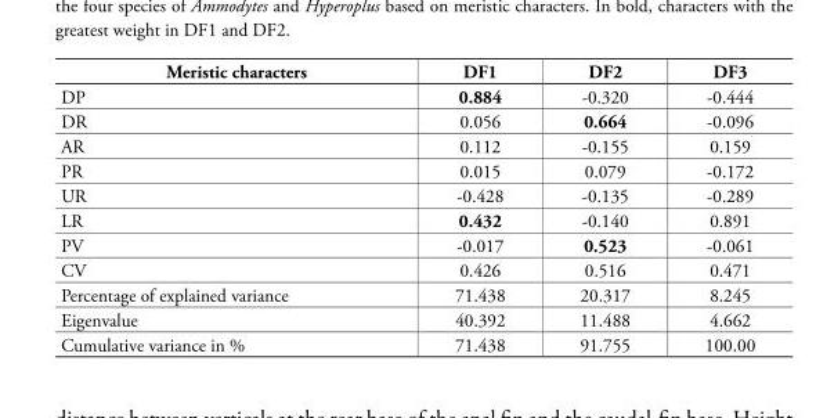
<table><thead><tr><td>Meristic characters</td><td>DF1</td><td>DF2</td><td>DF3</td></tr></thead><tbody><tr><td>DP</td><td>0.884</td><td>-0.320</td><td>-0.444</td></tr><tr><td>DR</td><td>0.056</td><td>0.664</td><td>-0.096</td></tr><tr><td>AR</td><td>0.112</td><td>-0.155</td><td>0.159</td></tr><tr><td>PR</td><td>0.015</td><td>0.079</td><td>-0.172</td></tr><tr><td>UR</td><td>-0.428</td><td>-0.135</td><td>-0.289</td></tr><tr><td>LR</td><td>0.432</td><td>-0.140</td><td>0.891</td></tr><tr><td>PV</td><td>-0.017</td><td>0.523</td><td>-0.061</td></tr><tr><td>CV</td><td>0.426</td><td>0.516</td><td>0.471</td></tr><tr><td>Percentage of explained variance</td><td>71.438</td><td>20.317</td><td>8.245</td></tr><tr><td>Eigenvalue</td><td>40.392</td><td>11.488</td><td>4.662</td></tr><tr><td>Cumulative variance in %</td><td>71.438</td><td>91.755</td><td>100.00</td></tr></tbody></table>